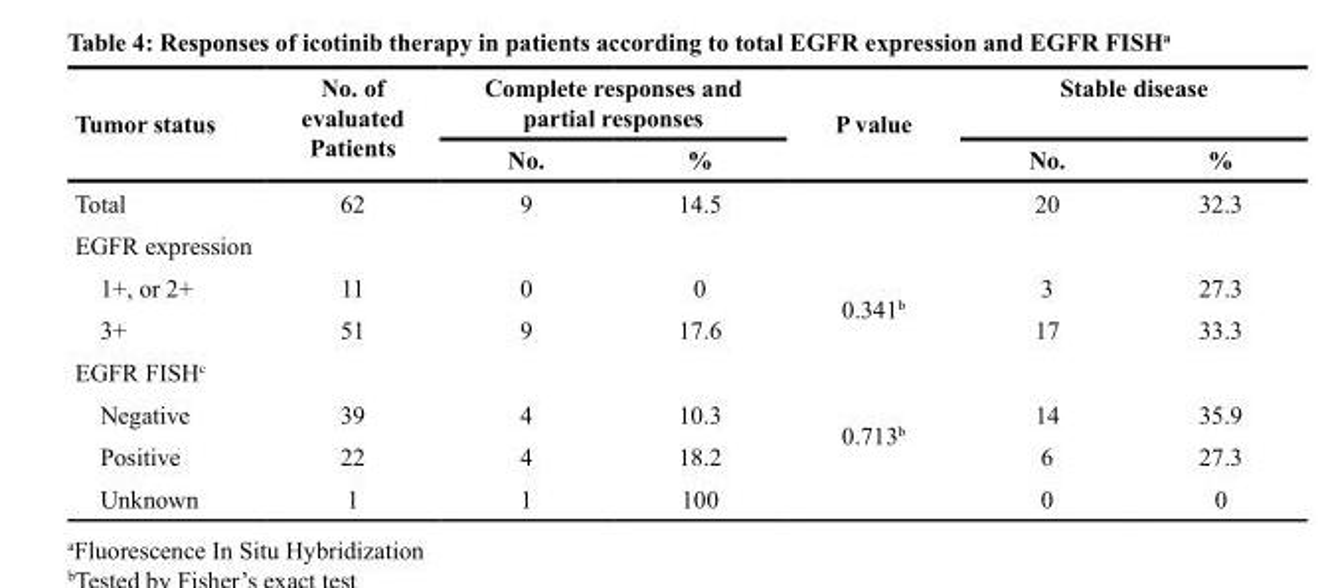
<table><thead><tr><td rowspan="2">Tumor status</td><td rowspan="2">No. of evaluated Patients</td><td colspan="2">Complete responses and partial responses</td><td rowspan="2">P value</td><td colspan="2">Stable disease</td></tr><tr><td>No.</td><td>%</td><td>No.</td><td>%</td></tr></thead><tbody><tr><td>Total</td><td>62</td><td>9</td><td>14.5</td><td></td><td>20</td><td>32.3</td></tr><tr><td colspan="7">EGFR expression</td></tr><tr><td>1+, or 2+</td><td>11</td><td>0</td><td>0</td><td rowspan="2">0.341<sup>b</sup></td><td>3</td><td>27.3</td></tr><tr><td>3+</td><td>51</td><td>9</td><td>17.6</td><td>17</td><td>33.3</td></tr><tr><td colspan="7">EGFR FISH<sup>c</sup></td></tr><tr><td>Negative</td><td>39</td><td>4</td><td>10.3</td><td rowspan="3">0.713<sup>b</sup></td><td>14</td><td>35.9</td></tr><tr><td>Positive</td><td>22</td><td>4</td><td>18.2</td><td>6</td><td>27.3</td></tr><tr><td>Unknown</td><td>1</td><td>1</td><td>100</td><td>0</td><td>0</td></tr></tbody></table>